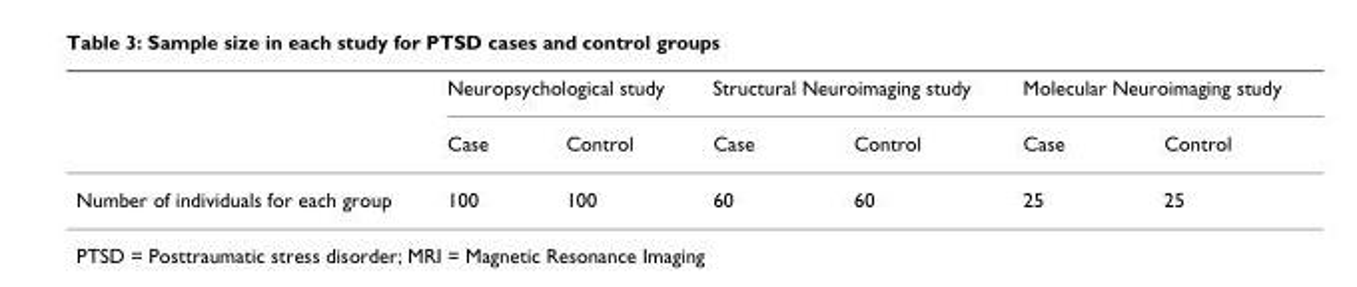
<table><thead><tr><td rowspan="2"></td><td colspan="2">Neuropsychological study</td><td colspan="2">Structural Neuroimaging study</td><td colspan="2">Molecular Neuroimaging study</td></tr><tr><td>Case</td><td>Control</td><td>Case</td><td>Control</td><td>Case</td><td>Control</td></tr></thead><tbody><tr><td>Number of individuals for each group</td><td>100</td><td>100</td><td>60</td><td>60</td><td>25</td><td>25</td></tr></tbody></table>